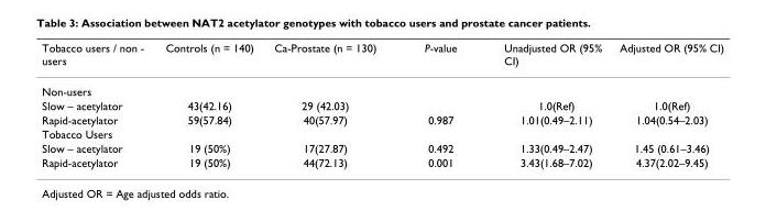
<table><thead><tr><td>Tobacco users / non - users</td><td>Controls (n = 140)</td><td>Ca-Prostate (n = 130)</td><td>P-value</td><td>Unadjusted OR (95% CI)</td><td>Adjusted OR (95% CI)</td></tr></thead><tbody><tr><td colspan="6">Non-users</td></tr><tr><td>Slow – acetylator</td><td>43(42.16)</td><td>29 (42.03)</td><td></td><td>1.0(Ref)</td><td>1.0(Ref)</td></tr><tr><td>Rapid-acetylator</td><td>59(57.84)</td><td>40(57.97)</td><td>0.987</td><td>1.01(0.49–2.11)</td><td>1.04(0.54–2.03)</td></tr><tr><td colspan="6">Tobacco Users</td></tr><tr><td>Slow – acetylator</td><td>19 (50%)</td><td>17(27.87)</td><td>0.492</td><td>1.33(0.49–2.47)</td><td>1.45 (0.61–3.46)</td></tr><tr><td>Rapid-acetylator</td><td>19 (50%)</td><td>44(72.13)</td><td>0.001</td><td>3.43(1.68–7.02)</td><td>4.37(2.02–9.45)</td></tr></tbody></table>